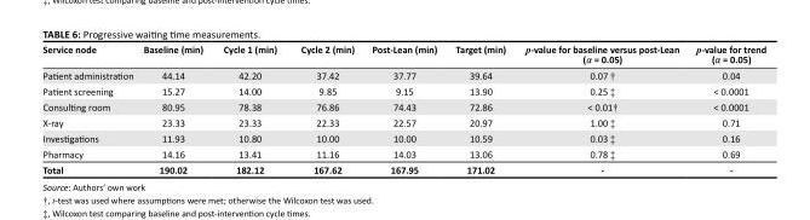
<table><thead><tr><td>Service node</td><td>Baseline (min)</td><td>Cycle 1 (min)</td><td>Cycle 2 (min)</td><td>Post-Lean (min)</td><td>Target (min)</td><td>p-value for baseline versus post-Lean (α = 0.05)</td><td>p-value for trend (α = 0.05)</td></tr></thead><tbody><tr><td>Patient administration</td><td>44.14</td><td>42.20</td><td>37.42</td><td>37.77</td><td>39.64</td><td>0.07 †</td><td>0.04</td></tr><tr><td>Patient screening</td><td>15.27</td><td>14.00</td><td>9.85</td><td>9.15</td><td>13.90</td><td>0.25 ‡</td><td>&lt; 0.0001</td></tr><tr><td>Consulting room</td><td>80.95</td><td>78.38</td><td>76.86</td><td>74.43</td><td>72.86</td><td>&lt; 0.01†</td><td>&lt; 0.0001</td></tr><tr><td>X-ray</td><td>23.33</td><td>23.33</td><td>22.33</td><td>22.57</td><td>20.97</td><td>1.00 ‡</td><td>0.71</td></tr><tr><td>Investigations</td><td>11.93</td><td>10.80</td><td>10.00</td><td>10.00</td><td>10.59</td><td>0.03 ‡</td><td>0.16</td></tr><tr><td>Pharmacy</td><td>14.16</td><td>13.41</td><td>11.16</td><td>14.03</td><td>13.06</td><td>0.78 ‡</td><td>0.69</td></tr><tr><td>Total</td><td>190.02</td><td>182.12</td><td>167.62</td><td>167.95</td><td>171.02</td><td>-</td><td>-</td></tr></tbody></table>